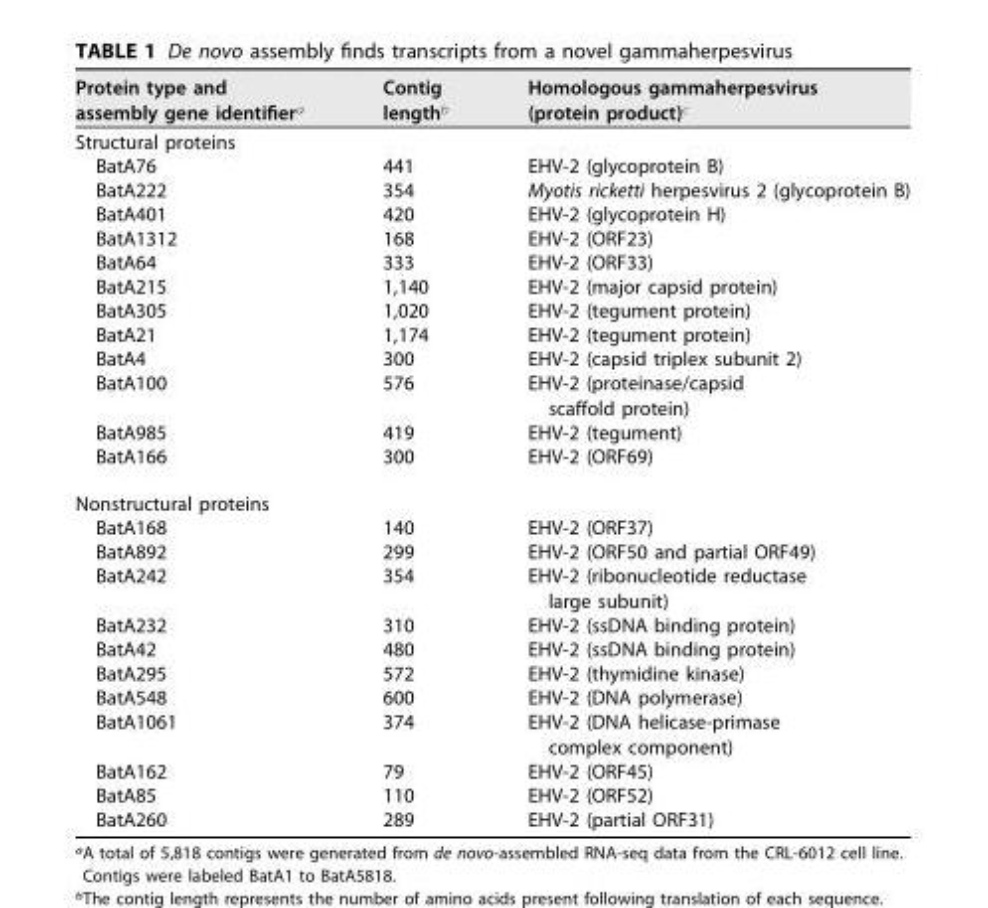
<table><thead><tr><td>Protein type and assembly gene identifier<sup>a</sup></td><td>Contig length<sup>b</sup></td><td>Homologous gammaherpesvirus (protein product)<sup>c</sup></td></tr></thead><tbody><tr><td colspan="3">Structural proteins</td></tr><tr><td>BatA76</td><td>441</td><td>EHV-2 (glycoprotein B)</td></tr><tr><td>BatA222</td><td>354</td><td>Myotis ricketti herpesvirus 2 (glycoprotein B)</td></tr><tr><td>BatA401</td><td>420</td><td>EHV-2 (glycoprotein H)</td></tr><tr><td>BatA1312</td><td>168</td><td>EHV-2 (ORF23)</td></tr><tr><td>BatA64</td><td>333</td><td>EHV-2 (ORF33)</td></tr><tr><td>BatA215</td><td>1,140</td><td>EHV-2 (major capsid protein)</td></tr><tr><td>BatA305</td><td>1,020</td><td>EHV-2 (tegument protein)</td></tr><tr><td>BatA21</td><td>1,174</td><td>EHV-2 (tegument protein)</td></tr><tr><td>BatA4</td><td>300</td><td>EHV-2 (capsid triplex subunit 2)</td></tr><tr><td>BatA100</td><td>576</td><td>EHV-2 (proteinase/capsid scaffold protein)</td></tr><tr><td>BatA985</td><td>419</td><td>EHV-2 (tegument)</td></tr><tr><td>BatA166</td><td>300</td><td>EHV-2 (ORF69)</td></tr><tr><td colspan="3">Nonstructural proteins</td></tr><tr><td>BatA168</td><td>140</td><td>EHV-2 (ORF37)</td></tr><tr><td>BatA892</td><td>299</td><td>EHV-2 (ORF50 and partial ORF49)</td></tr><tr><td>BatA242</td><td>354</td><td>EHV-2 (ribonucleotide reductase large subunit)</td></tr><tr><td>BatA232</td><td>310</td><td>EHV-2 (ssDNA binding protein)</td></tr><tr><td>BatA42</td><td>480</td><td>EHV-2 (ssDNA binding protein)</td></tr><tr><td>BatA295</td><td>572</td><td>EHV-2 (thymidine kinase)</td></tr><tr><td>BatA548</td><td>600</td><td>EHV-2 (DNA polymerase)</td></tr><tr><td>BatA1061</td><td>374</td><td>EHV-2 (DNA helicase-primase complex component)</td></tr><tr><td>BatA162</td><td>79</td><td>EHV-2 (ORF45)</td></tr><tr><td>BatA85</td><td>110</td><td>EHV-2 (ORF52)</td></tr><tr><td>BatA260</td><td>289</td><td>EHV-2 (partial ORF31)</td></tr></tbody></table>